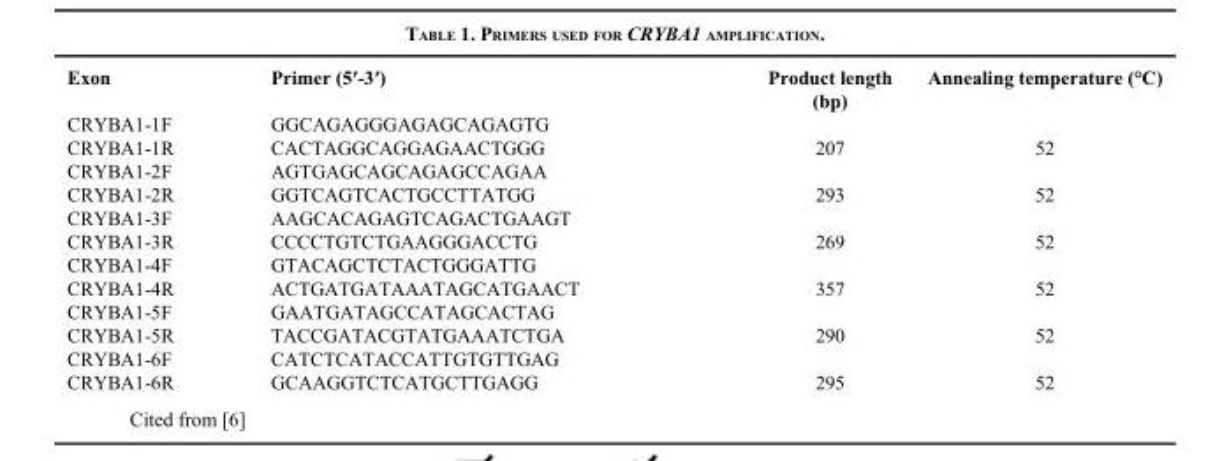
<table><thead><tr><td>Exon</td><td>Primer (5′-3′)</td><td>Product length (bp)</td><td>Annealing temperature (°C)</td></tr></thead><tbody><tr><td>CRYBA1-1F</td><td>GGCAGAGGGAGAGCAGAGTG</td><td></td><td></td></tr><tr><td>CRYBA1-1R</td><td>CACTAGGCAGGAGAACTGGG</td><td>207</td><td>52</td></tr><tr><td>CRYBA1-2F</td><td>AGTGAGCAGCAGAGCCAGAA</td><td></td><td></td></tr><tr><td>CRYBA1-2R</td><td>GGTCAGTCACTGCCTTATGG</td><td>293</td><td>52</td></tr><tr><td>CRYBA1-3F</td><td>AAGCACAGAGTCAGACTGAAGT</td><td></td><td></td></tr><tr><td>CRYBA1-3R</td><td>CCCCTGTCTGAAGGGACCTG</td><td>269</td><td>52</td></tr><tr><td>CRYBA1-4F</td><td>GTACAGCTCTACTGGGATTG</td><td></td><td></td></tr><tr><td>CRYBA1-4R</td><td>ACTGATGATAAATAGCATGAACT</td><td>357</td><td>52</td></tr><tr><td>CRYBA1-5F</td><td>GAATGATAGCCATAGCACTAG</td><td></td><td></td></tr><tr><td>CRYBA1-5R</td><td>TACCGATACGTATGAAATCTGA</td><td>290</td><td>52</td></tr><tr><td>CRYBA1-6F</td><td>CATCTCATACCATTGTGTTGAG</td><td></td><td></td></tr><tr><td>CRYBA1-6R</td><td>GCAAGGTCTCATGCTTGAGG</td><td>295</td><td>52</td></tr></tbody></table>